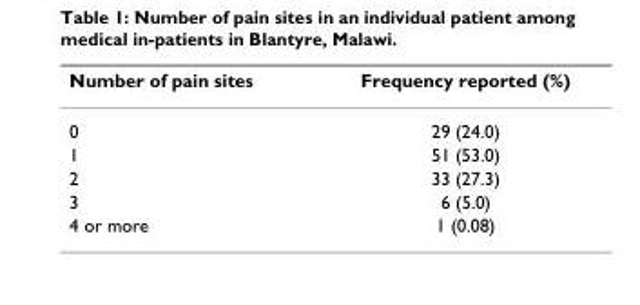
<table><thead><tr><td>Number of pain sites</td><td>Frequency reported (%)</td></tr></thead><tbody><tr><td>0</td><td>29 (24.0)</td></tr><tr><td>1</td><td>51 (53.0)</td></tr><tr><td>2</td><td>33 (27.3)</td></tr><tr><td>3</td><td>6 (5.0)</td></tr><tr><td>4 or more</td><td>1 (0.08)</td></tr></tbody></table>